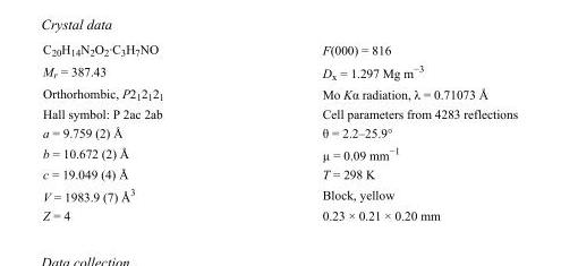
<table><tbody><tr><td>C<sub>20</sub>H<sub>14</sub>N<sub>2</sub>O<sub>2</sub>·C<sub>3</sub>H<sub>7</sub>NO</td><td>F(000) = 816</td></tr><tr><td>M<sub>r</sub> = 387.43</td><td>D<sub>x</sub> = 1.297 Mg m<sup>−3</sup></td></tr><tr><td>Orthorhombic, P2<sub>1</sub>2<sub>1</sub>2<sub>1</sub></td><td>Mo Kα radiation, λ = 0.71073 Å</td></tr><tr><td>Hall symbol: P 2ac 2ab</td><td>Cell parameters from 4283 reflections</td></tr><tr><td>a = 9.759 (2) Å</td><td>θ = 2.2–25.9°</td></tr><tr><td>b = 10.672 (2) Å</td><td>µ = 0.09 mm<sup>−1</sup></td></tr><tr><td>c = 19.049 (4) Å</td><td>T = 298 K</td></tr><tr><td>V = 1983.9 (7) Å<sup>3</sup></td><td>Block, yellow</td></tr><tr><td>Z = 4</td><td>0.23 × 0.21 × 0.20 mm</td></tr></tbody></table>